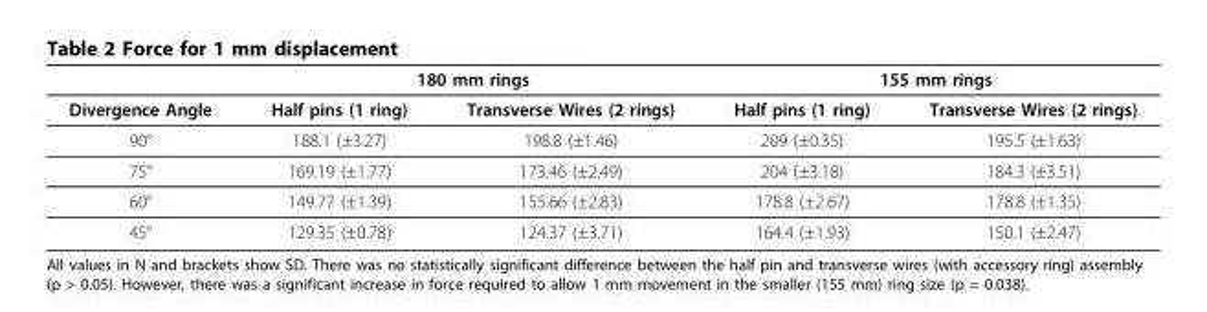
<table><thead><tr><td rowspan="2">Divergence Angle</td><td colspan="2">180 mm rings</td><td colspan="2">155 mm rings</td></tr><tr><td>Half pins (1 ring)</td><td>Transverse Wires (2 rings)</td><td>Half pins (1 ring)</td><td>Transverse Wires (2 rings)</td></tr></thead><tbody><tr><td>90°</td><td>188.1 (±3.27)</td><td>198.8 (±1.46)</td><td>209 (±0.35)</td><td>195.5 (±1.63)</td></tr><tr><td>75°</td><td>169.19 (±1.77)</td><td>173.46 (±2.49)</td><td>204 (±3.18)</td><td>184.3 (±3.51)</td></tr><tr><td>60°</td><td>149.77 (±1.39)</td><td>155.66 (±2.83)</td><td>178.8 (±2.67)</td><td>178.8 (±1.35)</td></tr><tr><td>45°</td><td>129.35 (±0.78)</td><td>124.37 (±3.71)</td><td>164.4 (±1.93)</td><td>150.1 (±2.47)</td></tr></tbody></table>